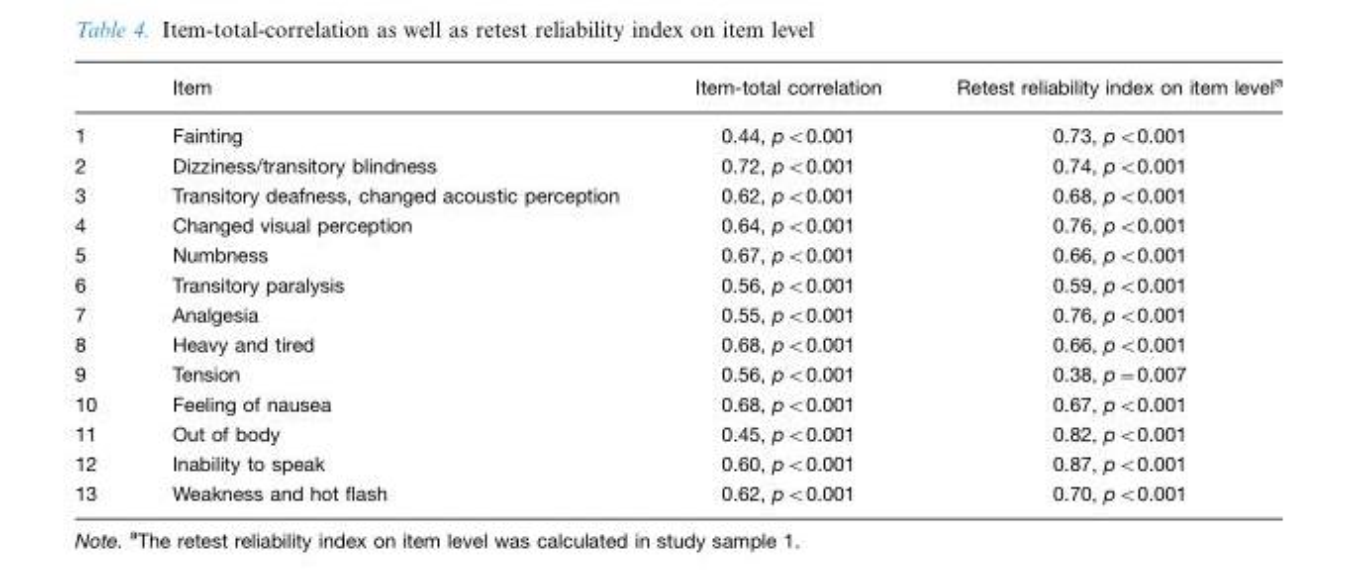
<table><thead><tr><td></td><td>Item</td><td>Item-total correlation</td><td>Retest reliability index on item level<sup>a</sup></td></tr></thead><tbody><tr><td>1</td><td>Fainting</td><td>0.44, p&lt;0.001</td><td>0.73, p&lt;0.001</td></tr><tr><td>2</td><td>Dizziness/transitory blindness</td><td>0.72, p&lt;0.001</td><td>0.74, p&lt;0.001</td></tr><tr><td>3</td><td>Transitory deafness, changed acoustic perception</td><td>0.62, p&lt;0.001</td><td>0.68, p&lt;0.001</td></tr><tr><td>4</td><td>Changed visual perception</td><td>0.64, p&lt;0.001</td><td>0.76, p&lt;0.001</td></tr><tr><td>5</td><td>Numbness</td><td>0.67, p&lt;0.001</td><td>0.66, p&lt;0.001</td></tr><tr><td>6</td><td>Transitory paralysis</td><td>0.56, p&lt;0.001</td><td>0.59, p&lt;0.001</td></tr><tr><td>7</td><td>Analgesia</td><td>0.55, p&lt;0.001</td><td>0.76, p&lt;0.001</td></tr><tr><td>8</td><td>Heavy and tired</td><td>0.68, p&lt;0.001</td><td>0.66, p&lt;0.001</td></tr><tr><td>9</td><td>Tension</td><td>0.56, p&lt;0.001</td><td>0.38, p=0.007</td></tr><tr><td>10</td><td>Feeling of nausea</td><td>0.68, p&lt;0.001</td><td>0.67, p&lt;0.001</td></tr><tr><td>11</td><td>Out of body</td><td>0.45, p&lt;0.001</td><td>0.82, p&lt;0.001</td></tr><tr><td>12</td><td>Inability to speak</td><td>0.60, p&lt;0.001</td><td>0.87, p&lt;0.001</td></tr><tr><td>13</td><td>Weakness and hot flash</td><td>0.62, p&lt;0.001</td><td>0.70, p&lt;0.001</td></tr></tbody></table>